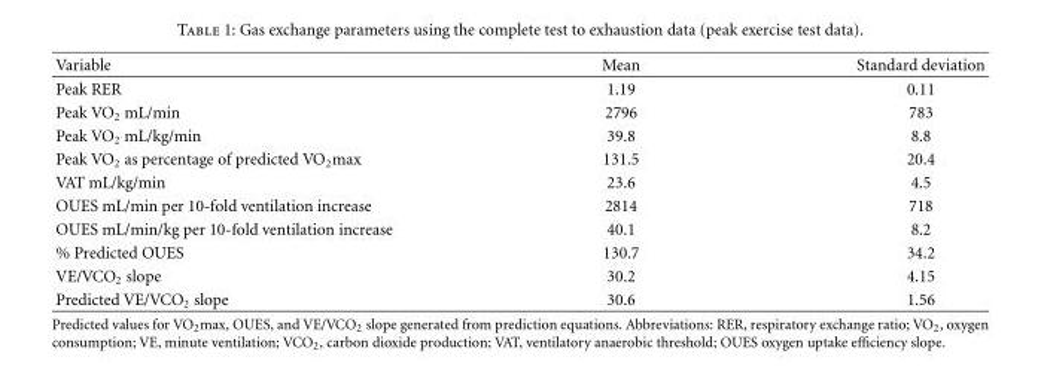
<table><thead><tr><td>Variable</td><td>Mean</td><td>Standard deviation</td></tr></thead><tbody><tr><td>Peak RER</td><td>1.19</td><td>0.11</td></tr><tr><td>Peak VO<sub>2</sub> mL/min</td><td>2796</td><td>783</td></tr><tr><td>Peak VO<sub>2</sub> mL/kg/min</td><td>39.8</td><td>8.8</td></tr><tr><td>Peak VO<sub>2</sub> as percentage of predicted VO<sub>2</sub>max</td><td>131.5</td><td>20.4</td></tr><tr><td>VAT mL/kg/min</td><td>23.6</td><td>4.5</td></tr><tr><td>OUES mL/min per 10-fold ventilation increase</td><td>2814</td><td>718</td></tr><tr><td>OUES mL/min/kg per 10-fold ventilation increase</td><td>40.1</td><td>8.2</td></tr><tr><td>% Predicted OUES</td><td>130.7</td><td>34.2</td></tr><tr><td>VE/VCO<sub>2</sub> slope</td><td>30.2</td><td>4.15</td></tr><tr><td>Predicted VE/VCO<sub>2</sub> slope</td><td>30.6</td><td>1.56</td></tr></tbody></table>